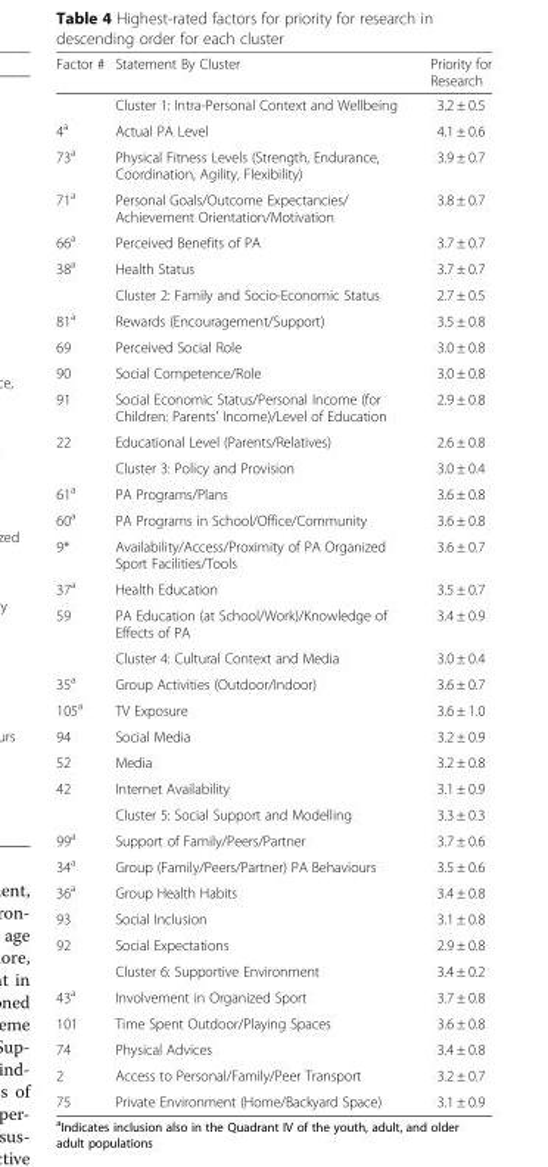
<table><thead><tr><td>Factor #</td><td>Statement By Cluster</td><td>Priority for Research</td></tr></thead><tbody><tr><td></td><td>Cluster 1: Intra-Personal Context and Wellbeing</td><td>3.2 ± 0.5</td></tr><tr><td>4<sup>a</sup></td><td>Actual PA Level</td><td>4.1 ± 0.6</td></tr><tr><td>73<sup>a</sup></td><td>Physical Fitness Levels (Strength, Endurance, Coordination, Agility, Flexibility)</td><td>3.9 ± 0.7</td></tr><tr><td>71<sup>a</sup></td><td>Personal Goals/Outcome Expectancies/ Achievement Orientation/Motivation</td><td>3.8 ± 0.7</td></tr><tr><td>66<sup>a</sup></td><td>Perceived Benefits of PA</td><td>3.7 ± 0.7</td></tr><tr><td rowspan="2">38<sup>a</sup></td><td>Health Status</td><td>3.7 ± 0.7</td></tr><tr><td>Cluster 2: Family and Socio-Economic Status</td><td>2.7 ± 0.5</td></tr><tr><td>81<sup>a</sup></td><td>Rewards (Encouragement/Support)</td><td>3.5 ± 0.8</td></tr><tr><td>69</td><td>Perceived Social Role</td><td>3.0 ± 0.8</td></tr><tr><td>90</td><td>Social Competence/Role</td><td>3.0 ± 0.8</td></tr><tr><td>91</td><td>Social Economic Status/Personal Income (for Children: Parents’ Income)/Level of Education</td><td>2.9 ± 0.8</td></tr><tr><td rowspan="2">22</td><td>Educational Level (Parents/Relatives)</td><td>2.6 ± 0.8</td></tr><tr><td>Cluster 3: Policy and Provision</td><td>3.0 ± 0.4</td></tr><tr><td>61<sup>a</sup></td><td>PA Programs/Plans</td><td>3.6 ± 0.8</td></tr><tr><td>60<sup>a</sup></td><td>PA Programs in School/Office/Community</td><td>3.6 ± 0.8</td></tr><tr><td>9*</td><td>Availability/Access/Proximity of PA Organized Sport Facilities/Tools</td><td>3.6 ± 0.7</td></tr><tr><td>37<sup>a</sup></td><td>Health Education</td><td>3.5 ± 0.7</td></tr><tr><td rowspan="2">59</td><td>PA Education (at School/Work)/Knowledge of Effects of PA</td><td>3.4 ± 0.9</td></tr><tr><td>Cluster 4: Cultural Context and Media</td><td>3.0 ± 0.4</td></tr><tr><td>35<sup>a</sup></td><td>Group Activities (Outdoor/Indoor)</td><td>3.6 ± 0.7</td></tr><tr><td>105<sup>a</sup></td><td>TV Exposure</td><td>3.6 ± 1.0</td></tr><tr><td>94</td><td>Social Media</td><td>3.2 ± 0.9</td></tr><tr><td>52</td><td>Media</td><td>3.2 ± 0.8</td></tr><tr><td rowspan="2">42</td><td>Internet Availability</td><td>3.1 ± 0.9</td></tr><tr><td>Cluster 5: Social Support and Modelling</td><td>3.3 ± 0.3</td></tr><tr><td>99<sup>a</sup></td><td>Support of Family/Peers/Partner</td><td>3.7 ± 0.6</td></tr><tr><td>34<sup>a</sup></td><td>Group (Family/Peers/Partner) PA Behaviours</td><td>3.5 ± 0.6</td></tr><tr><td>36<sup>a</sup></td><td>Group Health Habits</td><td>3.4 ± 0.8</td></tr><tr><td>93</td><td>Social Inclusion</td><td>3.1 ± 0.8</td></tr><tr><td rowspan="2">92</td><td>Social Expectations</td><td>2.9 ± 0.8</td></tr><tr><td>Cluster 6: Supportive Environment</td><td>3.4 ± 0.2</td></tr><tr><td>43<sup>a</sup></td><td>Involvement in Organized Sport</td><td>3.7 ± 0.8</td></tr><tr><td>101</td><td>Time Spent Outdoor/Playing Spaces</td><td>3.6 ± 0.8</td></tr><tr><td>74</td><td>Physical Advices</td><td>3.4 ± 0.8</td></tr><tr><td>2</td><td>Access to Personal/Family/Peer Transport</td><td>3.2 ± 0.7</td></tr><tr><td>75</td><td>Private Environment (Home/Backyard Space)</td><td>3.1 ± 0.9</td></tr></tbody></table>